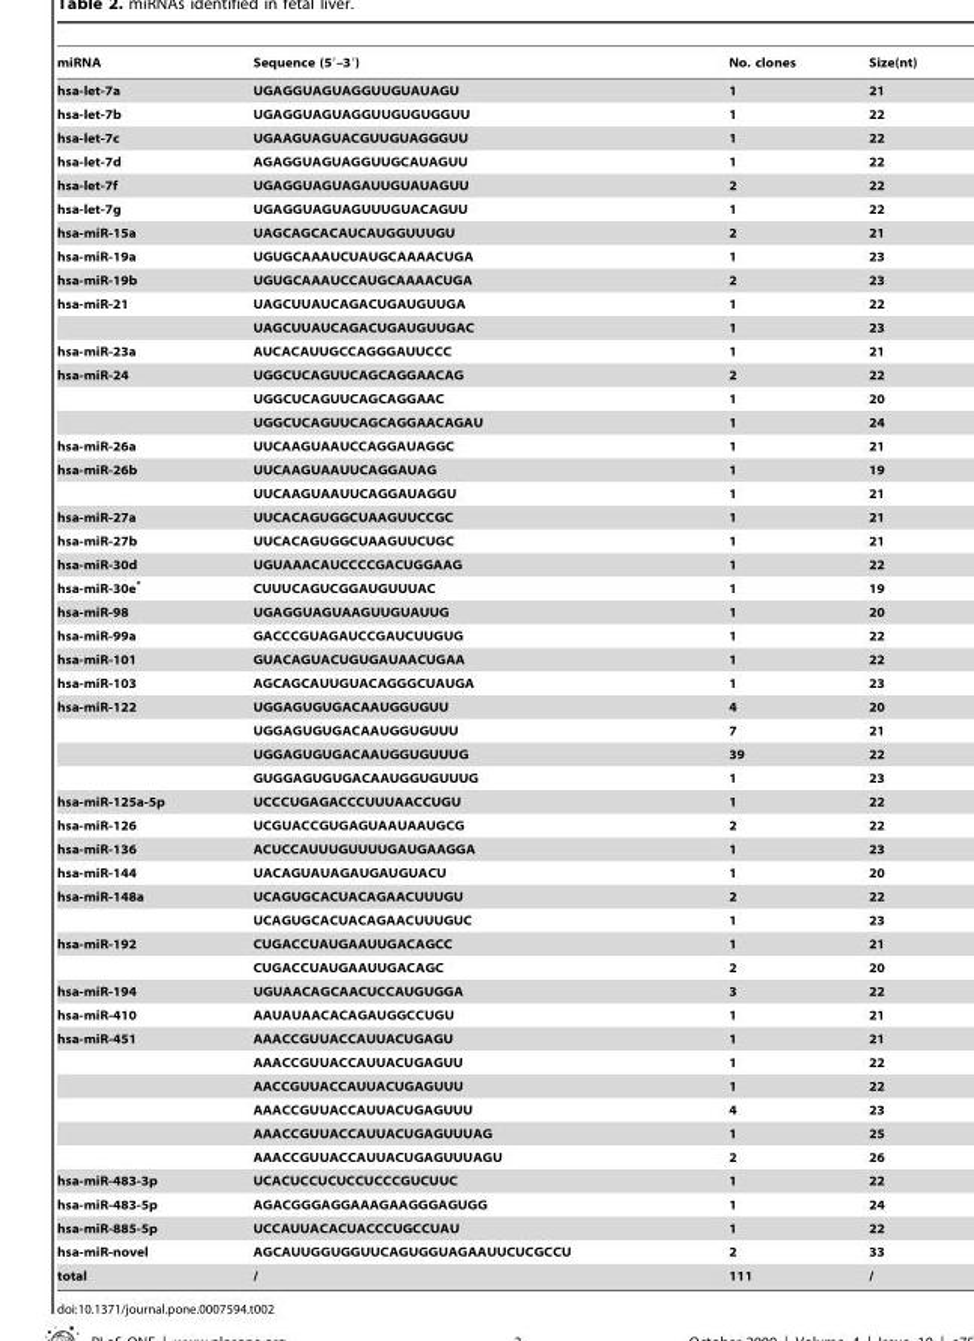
<table><thead><tr><td>miRNA</td><td>Sequence (5′–3′)</td><td>No. clones</td><td>Size(nt)</td></tr></thead><tbody><tr><td>hsa-let-7a</td><td>UGAGGUAGUAGGUUGUAUAGU</td><td>1</td><td>21</td></tr><tr><td>hsa-let-7b</td><td>UGAGGUAGUAGGUUGUGUGGUU</td><td>1</td><td>22</td></tr><tr><td>hsa-let-7c</td><td>UGAAGUAGUACGUUGUAGGGUU</td><td>1</td><td>22</td></tr><tr><td>hsa-let-7d</td><td>AGAGGUAGUAGGUUGCAUAGUU</td><td>1</td><td>22</td></tr><tr><td>hsa-let-7f</td><td>UGAGGUAGUAGAUUGUAUAGUU</td><td>2</td><td>22</td></tr><tr><td>hsa-let-7g</td><td>UGAGGUAGUAGUUUGUACAGUU</td><td>1</td><td>22</td></tr><tr><td>hsa-miR-15a</td><td>UAGCAGCACAUCAUGGUUUGU</td><td>2</td><td>21</td></tr><tr><td>hsa-miR-19a</td><td>UGUGCAAAUCUAUGCAAAACUGA</td><td>1</td><td>23</td></tr><tr><td>hsa-miR-19b</td><td>UGUGCAAAUCCAUGCAAAACUGA</td><td>2</td><td>23</td></tr><tr><td rowspan="2">hsa-miR-21</td><td>UAGCUUAUCAGACUGAUGUUGA</td><td>1</td><td>22</td></tr><tr><td>UAGCUUAUCAGACUGAUGUUGAC</td><td>1</td><td>23</td></tr><tr><td>hsa-miR-23a</td><td>AUCACAUUGCCAGGGAUUCCC</td><td>1</td><td>21</td></tr><tr><td rowspan="3">hsa-miR-24</td><td>UGGCUCAGUUCAGCAGGAACAG</td><td>2</td><td>22</td></tr><tr><td>UGGCUCAGUUCAGCAGGAAC</td><td>1</td><td>20</td></tr><tr><td>UGGCUCAGUUCAGCAGGAACAGAU</td><td>1</td><td>24</td></tr><tr><td>hsa-miR-26a</td><td>UUCAAGUAAUCCAGGAUAGGC</td><td>1</td><td>21</td></tr><tr><td rowspan="2">hsa-miR-26b</td><td>UUCAAGUAAUUCAGGAUAG</td><td>1</td><td>19</td></tr><tr><td>UUCAAGUAAUUCAGGAUAGGU</td><td>1</td><td>21</td></tr><tr><td>hsa-miR-27a</td><td>UUCACAGUGGCUAAGUUCCGC</td><td>1</td><td>21</td></tr><tr><td>hsa-miR-27b</td><td>UUCACAGUGGCUAAGUUCUGC</td><td>1</td><td>21</td></tr><tr><td>hsa-miR-30d</td><td>UGUAAACAUCCCCGACUGGAAG</td><td>1</td><td>22</td></tr><tr><td>hsa-miR-30e*</td><td>CUUUCAGUCGGAUGUUUAC</td><td>1</td><td>19</td></tr><tr><td>hsa-miR-98</td><td>UGAGGUAGUAAGUUGUAUUG</td><td>1</td><td>20</td></tr><tr><td>hsa-miR-99a</td><td>GACCCGUAGAUCCGAUCUUGUG</td><td>1</td><td>22</td></tr><tr><td>hsa-miR-101</td><td>GUACAGUACUGUGAUAACUGAA</td><td>1</td><td>22</td></tr><tr><td>hsa-miR-103</td><td>AGCAGCAUUGUACAGGGCUAUGA</td><td>1</td><td>23</td></tr><tr><td rowspan="4">hsa-miR-122</td><td>UGGAGUGUGACAAUGGUGUU</td><td>4</td><td>20</td></tr><tr><td>UGGAGUGUGACAAUGGUGUUU</td><td>7</td><td>21</td></tr><tr><td>UGGAGUGUGACAAUGGUGUUUG</td><td>39</td><td>22</td></tr><tr><td>GUGGAGUGUGACAAUGGUGUUUG</td><td>1</td><td>23</td></tr><tr><td>hsa-miR-125a-5p</td><td>UCCCUGAGACCCUUUAACCUGU</td><td>1</td><td>22</td></tr><tr><td>hsa-miR-126</td><td>UCGUACCGUGAGUAAUAAUGCG</td><td>2</td><td>22</td></tr><tr><td>hsa-miR-136</td><td>ACUCCAUUUGUUUUGAUGAAGGA</td><td>1</td><td>23</td></tr><tr><td>hsa-miR-144</td><td>UACAGUAUAGAUGAUGUACU</td><td>1</td><td>20</td></tr><tr><td rowspan="2">hsa-miR-148a</td><td>UCAGUGCACUACAGAACUUUGU</td><td>2</td><td>22</td></tr><tr><td>UCAGUGCACUACAGAACUUUGUC</td><td>1</td><td>23</td></tr><tr><td rowspan="2">hsa-miR-192</td><td>CUGACCUAUGAAUUGACAGCC</td><td>1</td><td>21</td></tr><tr><td>CUGACCUAUGAAUUGACAGC</td><td>2</td><td>20</td></tr><tr><td>hsa-miR-194</td><td>UGUAACAGCAACUCCAUGUGGA</td><td>3</td><td>22</td></tr><tr><td>hsa-miR-410</td><td>AAUAUAACACAGAUGGCCUGU</td><td>1</td><td>21</td></tr><tr><td rowspan="6">hsa-miR-451</td><td>AAACCGUUACCAUUACUGAGU</td><td>1</td><td>21</td></tr><tr><td>AAACCGUUACCAUUACUGAGUU</td><td>1</td><td>22</td></tr><tr><td>AACCGUUACCAUUACUGAGUUU</td><td>1</td><td>22</td></tr><tr><td>AAACCGUUACCAUUACUGAGUUU</td><td>4</td><td>23</td></tr><tr><td>AAACCGUUACCAUUACUGAGUUUAG</td><td>1</td><td>25</td></tr><tr><td>AAACCGUUACCAUUACUGAGUUUAGU</td><td>2</td><td>26</td></tr><tr><td>hsa-miR-483-3p</td><td>UCACUCCUCUCCUCCCGUCUUC</td><td>1</td><td>22</td></tr><tr><td>hsa-miR-483-5p</td><td>AGACGGGAGGAAAGAAGGGAGUGG</td><td>1</td><td>24</td></tr><tr><td>hsa-miR-885-5p</td><td>UCCAUUACACUACCCUGCCUAU</td><td>1</td><td>22</td></tr><tr><td>hsa-miR-novel</td><td>AGCAUUGGUGGUUCAGUGGUAGAAUUCUCGCCU</td><td>2</td><td>33</td></tr><tr><td>total</td><td>/</td><td>111</td><td>/</td></tr></tbody></table>